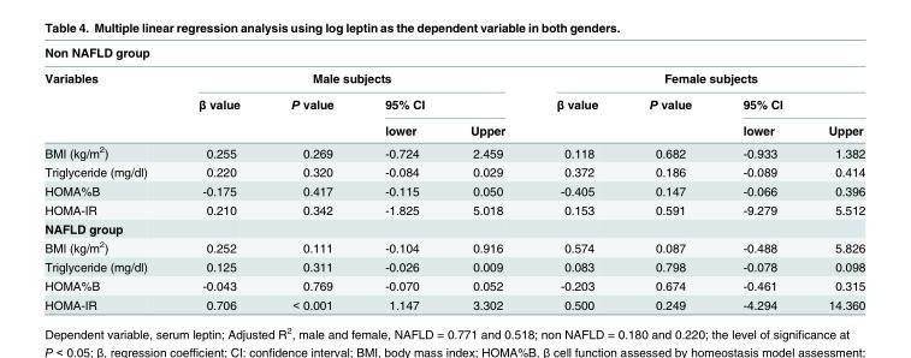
<table><thead><tr><td colspan="9">Non NAFLD group</td></tr><tr><td rowspan="3">Variables</td><td colspan="4">Male subjects</td><td colspan="4">Female subjects</td></tr><tr><td rowspan="2">β value</td><td rowspan="2">P value</td><td colspan="2">95% CI</td><td rowspan="2">β value</td><td rowspan="2">P value</td><td colspan="2">95% CI</td></tr><tr><td>lower</td><td>Upper</td><td>lower</td><td>Upper</td></tr></thead><tbody><tr><td>BMI (kg/m<sup>2</sup>)</td><td>0.255</td><td>0.269</td><td>-0.724</td><td>2.459</td><td>0.118</td><td>0.682</td><td>-0.933</td><td>1.382</td></tr><tr><td>Triglyceride (mg/dl)</td><td>0.220</td><td>0.320</td><td>-0.084</td><td>0.029</td><td>0.372</td><td>0.186</td><td>-0.089</td><td>0.414</td></tr><tr><td>HOMA%B</td><td>-0.175</td><td>0.417</td><td>-0.115</td><td>0.050</td><td>-0.405</td><td>0.147</td><td>-0.066</td><td>0.396</td></tr><tr><td>HOMA-IR</td><td>0.210</td><td>0.342</td><td>-1.825</td><td>5.018</td><td>0.153</td><td>0.591</td><td>-9.279</td><td>5.512</td></tr><tr><td colspan="9">NAFLD group</td></tr><tr><td>BMI (kg/m<sup>2</sup>)</td><td>0.252</td><td>0.111</td><td>-0.104</td><td>0.916</td><td>0.574</td><td>0.087</td><td>-0.488</td><td>5.826</td></tr><tr><td>Triglyceride (mg/dl)</td><td>0.125</td><td>0.311</td><td>-0.026</td><td>0.009</td><td>0.083</td><td>0.798</td><td>-0.078</td><td>0.098</td></tr><tr><td>HOMA%B</td><td>-0.043</td><td>0.769</td><td>-0.070</td><td>0.052</td><td>-0.203</td><td>0.674</td><td>-0.461</td><td>0.315</td></tr><tr><td>HOMA-IR</td><td>0.706</td><td>&lt; 0.001</td><td>1.147</td><td>3.302</td><td>0.500</td><td>0.249</td><td>-4.294</td><td>14.360</td></tr></tbody></table>